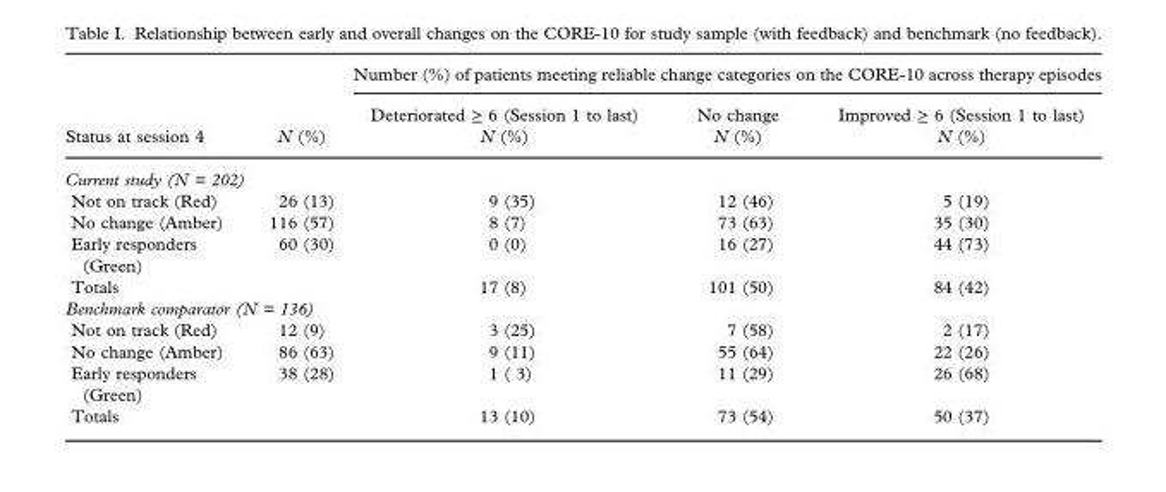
<table><thead><tr><td rowspan="2">Status at session 4</td><td rowspan="2">N (%)</td><td colspan="3">Number (%) of patients meeting reliable change categories on the CORE-10 across therapy episodes</td></tr><tr><td>Deteriorated ≥ 6 (Session 1 to last) N (%)</td><td>No change N (%)</td><td>Improved ≥ 6 (Session 1 to last) N (%)</td></tr></thead><tbody><tr><td colspan="5">Current study (N = 202)</td></tr><tr><td>Not on track (Red)</td><td>26 (13)</td><td>9 (35)</td><td>12 (46)</td><td>5 (19)</td></tr><tr><td>No change (Amber)</td><td>116 (57)</td><td>8 (7)</td><td>73 (63)</td><td>35 (30)</td></tr><tr><td>Early responders (Green)</td><td>60 (30)</td><td>0 (0)</td><td>16 (27)</td><td>44 (73)</td></tr><tr><td>Totals</td><td></td><td>17 (8)</td><td>101 (50)</td><td>84 (42)</td></tr><tr><td colspan="5">Benchmark comparator (N = 136)</td></tr><tr><td>Not on track (Red)</td><td>12 (9)</td><td>3 (25)</td><td>7 (58)</td><td>2 (17)</td></tr><tr><td>No change (Amber)</td><td>86 (63)</td><td>9 (11)</td><td>55 (64)</td><td>22 (26)</td></tr><tr><td>Early responders (Green)</td><td>38 (28)</td><td>1 ( 3)</td><td>11 (29)</td><td>26 (68)</td></tr><tr><td>Totals</td><td></td><td>13 (10)</td><td>73 (54)</td><td>50 (37)</td></tr></tbody></table>